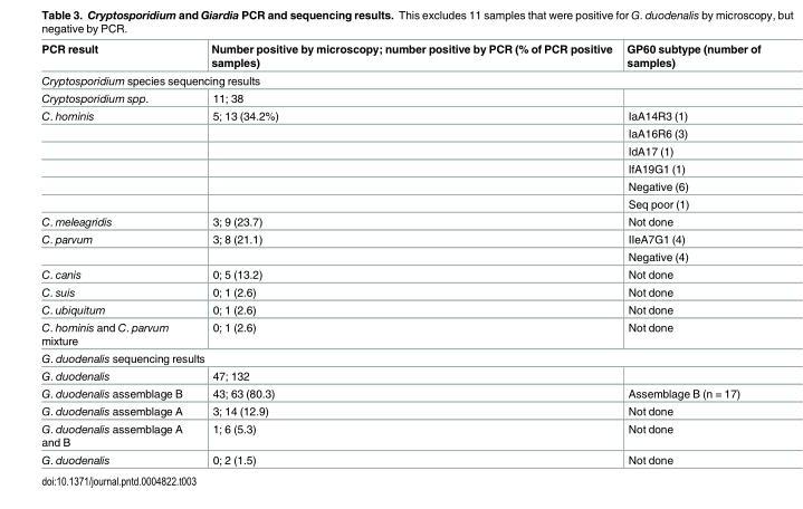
<table><thead><tr><td>PCR result</td><td>Number positive by microscopy; number positive by PCR (% of PCR positive samples)</td><td>GP60 subtype (number of samples)</td></tr></thead><tbody><tr><td colspan="3">Cryptosporidium species sequencing results</td></tr><tr><td>Cryptosporidium spp.</td><td>11; 38</td><td></td></tr><tr><td rowspan="6">C. hominis</td><td>5; 13 (34.2%)</td><td>IaA14R3 (1)</td></tr><tr><td></td><td>IaA16R6 (3)</td></tr><tr><td></td><td>IdA17 (1)</td></tr><tr><td></td><td>IfA19G1 (1)</td></tr><tr><td></td><td>Negative (6)</td></tr><tr><td></td><td>Seq poor (1)</td></tr><tr><td>C. meleagridis</td><td>3; 9 (23.7)</td><td>Not done</td></tr><tr><td rowspan="2">C. parvum</td><td>3; 8 (21.1)</td><td>IIeA7G1 (4)</td></tr><tr><td></td><td>Negative (4)</td></tr><tr><td>C. canis</td><td>0; 5 (13.2)</td><td>Not done</td></tr><tr><td>C. suis</td><td>0; 1 (2.6)</td><td>Not done</td></tr><tr><td>C. ubiquitum</td><td>0; 1 (2.6)</td><td>Not done</td></tr><tr><td>C. hominis and C. parvum mixture</td><td>0; 1 (2.6)</td><td>Not done</td></tr><tr><td colspan="3">G. duodenalis sequencing results</td></tr><tr><td>G. duodenalis</td><td>47; 132</td><td></td></tr><tr><td>G. duodenalis assemblage B</td><td>43; 63 (80.3)</td><td>Assemblage B (n = 17)</td></tr><tr><td>G. duodenalis assemblage A</td><td>3; 14 (12.9)</td><td>Not done</td></tr><tr><td>G. duodenalis assemblage A and B</td><td>1; 6 (5.3)</td><td>Not done</td></tr><tr><td>G. duodenalis</td><td>0; 2 (1.5)</td><td>Not done</td></tr></tbody></table>